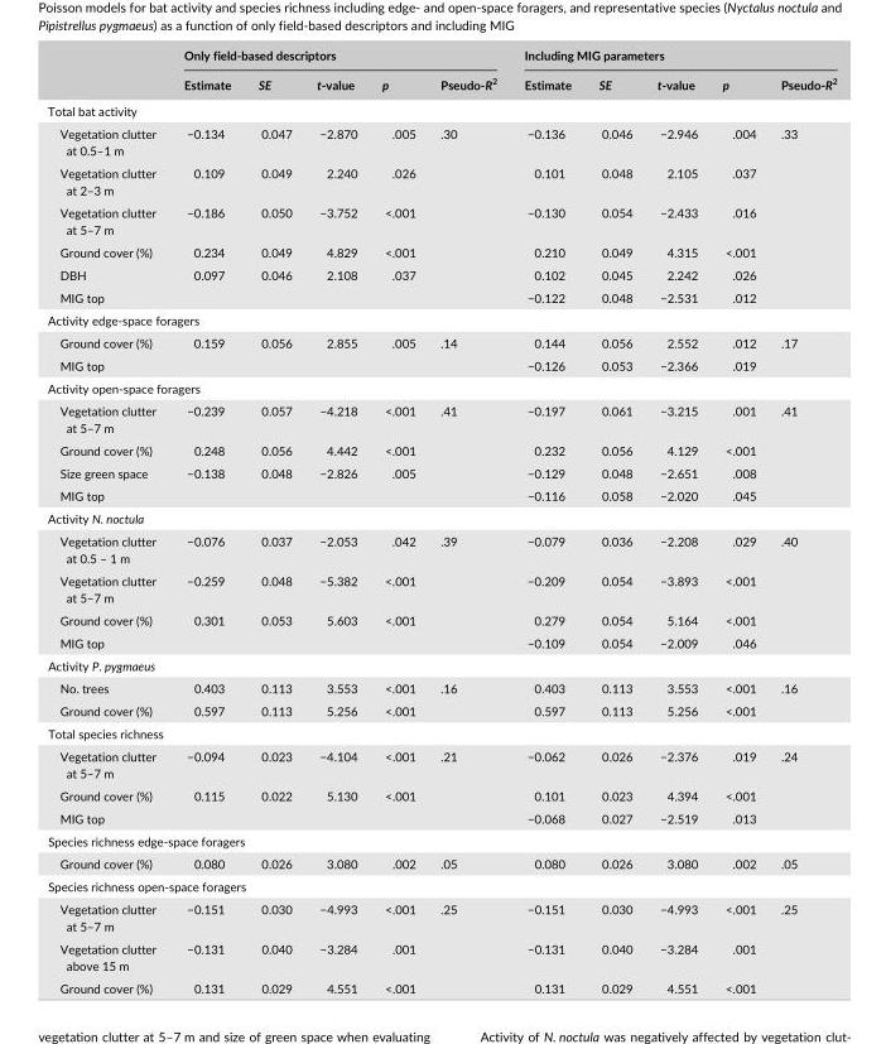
<table><thead><tr><td rowspan="2"></td><td colspan="5">Only field- based descriptors</td><td colspan="5">Including MIG parameters</td></tr><tr><td>Estimate</td><td>SE</td><td>t- value</td><td>p</td><td>Pseudo- R<sup>2</sup></td><td>Estimate</td><td>SE</td><td>t- value</td><td>p</td><td>Pseudo- R<sup>2</sup></td></tr></thead><tbody><tr><td colspan="11">Total bat activity</td></tr><tr><td>Vegetation clutter at 0.5–1 m</td><td>−0.134</td><td>0.047</td><td>−2.870</td><td>.005</td><td rowspan="6">.30</td><td>−0.136</td><td>0.046</td><td>−2.946</td><td>.004</td><td rowspan="6">.33</td></tr><tr><td>Vegetation clutter at 2–3 m</td><td>0.109</td><td>0.049</td><td>2.240</td><td>.026</td><td>0.101</td><td>0.048</td><td>2.105</td><td>.037</td></tr><tr><td>Vegetation clutter at 5–7 m</td><td>−0.186</td><td>0.050</td><td>−3.752</td><td>&lt;.001</td><td>−0.130</td><td>0.054</td><td>−2.433</td><td>.016</td></tr><tr><td>Ground cover (%)</td><td>0.234</td><td>0.049</td><td>4.829</td><td>&lt;.001</td><td>0.210</td><td>0.049</td><td>4.315</td><td>&lt;.001</td></tr><tr><td>DBH</td><td>0.097</td><td>0.046</td><td>2.108</td><td>.037</td><td>0.102</td><td>0.045</td><td>2.242</td><td>.026</td></tr><tr><td>MIG top</td><td></td><td></td><td></td><td></td><td>−0.122</td><td>0.048</td><td>−2.531</td><td>.012</td></tr><tr><td colspan="11">Activity edge- space foragers</td></tr><tr><td>Ground cover (%)</td><td>0.159</td><td>0.056</td><td>2.855</td><td>.005</td><td rowspan="2">.14</td><td>0.144</td><td>0.056</td><td>2.552</td><td>.012</td><td rowspan="2">.17</td></tr><tr><td>MIG top</td><td></td><td></td><td></td><td></td><td>−0.126</td><td>0.053</td><td>−2.366</td><td>.019</td></tr><tr><td colspan="11">Activity open- space foragers</td></tr><tr><td>Vegetation clutter at 5–7 m</td><td>−0.239</td><td>0.057</td><td>−4.218</td><td>&lt;.001</td><td>.41</td><td>−0.197</td><td>0.061</td><td>−3.215</td><td>.001</td><td>.41</td></tr><tr><td>Ground cover (%)</td><td>0.248</td><td>0.056</td><td>4.442</td><td>&lt;.001</td><td></td><td>0.232</td><td>0.056</td><td>4.129</td><td>&lt;.001</td><td></td></tr><tr><td>Size green space</td><td>−0.138</td><td>0.048</td><td>−2.826</td><td>.005</td><td></td><td>−0.129</td><td>0.048</td><td>−2.651</td><td>.008</td><td></td></tr><tr><td>MIG top</td><td></td><td></td><td></td><td></td><td></td><td>−0.116</td><td>0.058</td><td>−2.020</td><td>.045</td><td></td></tr><tr><td colspan="11">Activity N. noctula</td></tr><tr><td>Vegetation clutter at 0.5 – 1 m</td><td>−0.076</td><td>0.037</td><td>−2.053</td><td>.042</td><td>.39</td><td>−0.079</td><td>0.036</td><td>−2.208</td><td>.029</td><td>.40</td></tr><tr><td>Vegetation clutter at 5–7 m</td><td>−0.259</td><td>0.048</td><td>−5.382</td><td>&lt;.001</td><td></td><td>−0.209</td><td>0.054</td><td>−3.893</td><td>&lt;.001</td><td></td></tr><tr><td>Ground cover (%)</td><td>0.301</td><td>0.053</td><td>5.603</td><td>&lt;.001</td><td></td><td>0.279</td><td>0.054</td><td>5.164</td><td>&lt;.001</td><td></td></tr><tr><td>MIG top</td><td></td><td></td><td></td><td></td><td></td><td>−0.109</td><td>0.054</td><td>−2.009</td><td>.046</td><td></td></tr><tr><td colspan="11">Activity P. pygmaeus</td></tr><tr><td>No. trees</td><td>0.403</td><td>0.113</td><td>3.553</td><td>&lt;.001</td><td rowspan="2">.16</td><td>0.403</td><td>0.113</td><td>3.553</td><td>&lt;.001</td><td rowspan="2">.16</td></tr><tr><td>Ground cover (%)</td><td>0.597</td><td>0.113</td><td>5.256</td><td>&lt;.001</td><td>0.597</td><td>0.113</td><td>5.256</td><td>&lt;.001</td></tr><tr><td colspan="11">Total species richness</td></tr><tr><td>Vegetation clutter at 5–7 m</td><td>−0.094</td><td>0.023</td><td>−4.104</td><td>&lt;.001</td><td rowspan="3">.21</td><td>−0.062</td><td>0.026</td><td>−2.376</td><td>.019</td><td rowspan="3">.24</td></tr><tr><td>Ground cover (%)</td><td>0.115</td><td>0.022</td><td>5.130</td><td>&lt;.001</td><td>0.101</td><td>0.023</td><td>4.394</td><td>&lt;.001</td></tr><tr><td>MIG top</td><td></td><td></td><td></td><td></td><td>−0.068</td><td>0.027</td><td>−2.519</td><td>.013</td></tr><tr><td colspan="11">Species richness edge- space foragers</td></tr><tr><td>Ground cover (%)</td><td>0.080</td><td>0.026</td><td>3.080</td><td>.002</td><td>.05</td><td>0.080</td><td>0.026</td><td>3.080</td><td>.002</td><td>.05</td></tr><tr><td colspan="11">Species richness open- space foragers</td></tr><tr><td>Vegetation clutter at 5–7 m</td><td>−0.151</td><td>0.030</td><td>−4.993</td><td>&lt;.001</td><td rowspan="3">.25</td><td>−0.151</td><td>0.030</td><td>−4.993</td><td>&lt;.001</td><td rowspan="3">.25</td></tr><tr><td>Vegetation clutter above 15 m</td><td>−0.131</td><td>0.040</td><td>−3.284</td><td>.001</td><td>−0.131</td><td>0.040</td><td>−3.284</td><td>.001</td></tr><tr><td>Ground cover (%)</td><td>0.131</td><td>0.029</td><td>4.551</td><td>&lt;.001</td><td>0.131</td><td>0.029</td><td>4.551</td><td>&lt;.001</td></tr></tbody></table>